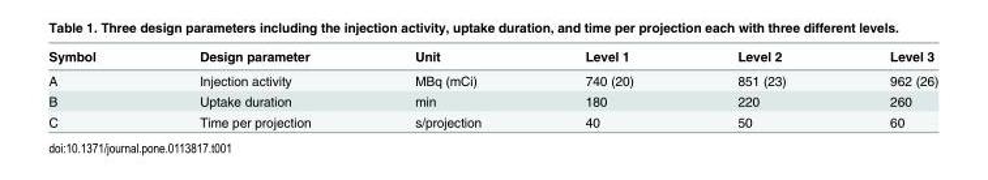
<table><thead><tr><td>Symbol</td><td>Design parameter</td><td>Unit</td><td>Level 1</td><td>Level 2</td><td>Level 3</td></tr></thead><tbody><tr><td>A</td><td>Injection activity</td><td>MBq (mCi)</td><td>740 (20)</td><td>851 (23)</td><td>962 (26)</td></tr><tr><td>B</td><td>Uptake duration</td><td>min</td><td>180</td><td>220</td><td>260</td></tr><tr><td>C</td><td>Time per projection</td><td>s/projection</td><td>40</td><td>50</td><td>60</td></tr></tbody></table>